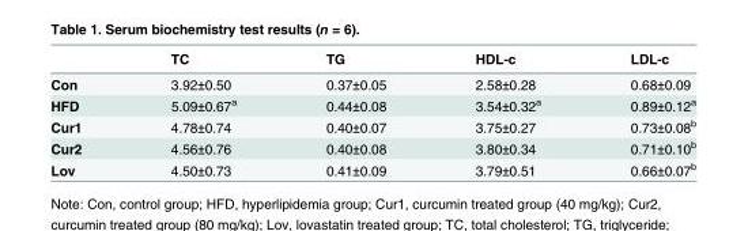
<table><thead><tr><td></td><td>TC</td><td>TG</td><td>HDL-c</td><td>LDL-c</td></tr></thead><tbody><tr><td>Con</td><td>3.92±0.50</td><td>0.37±0.05</td><td>2.58±0.28</td><td>0.68±0.09</td></tr><tr><td>HFD</td><td>5.09±0.67<sup>a</sup></td><td>0.44±0.08</td><td>3.54±0.32<sup>a</sup></td><td>0.89±0.12<sup>a</sup></td></tr><tr><td>Cur1</td><td>4.78±0.74</td><td>0.40±0.07</td><td>3.75±0.27</td><td>0.73±0.08<sup>b</sup></td></tr><tr><td>Cur2</td><td>4.56±0.76</td><td>0.40±0.08</td><td>3.80±0.34</td><td>0.71±0.10<sup>b</sup></td></tr><tr><td>Lov</td><td>4.50±0.73</td><td>0.41±0.09</td><td>3.79±0.51</td><td>0.66±0.07<sup>b</sup></td></tr></tbody></table>